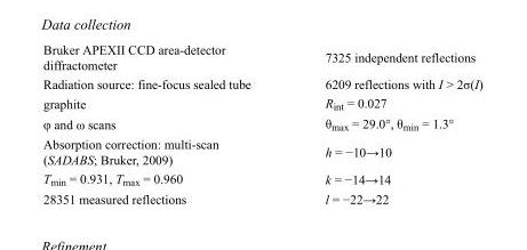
<table><tbody><tr><td>Bruker APEXII CCD area-detector diffractometer</td><td>7325 independent reflections</td></tr><tr><td>Radiation source: fine-focus sealed tube</td><td>6209 reflections with I &gt; 2σ(I)</td></tr><tr><td>graphite</td><td>R<sub>int</sub> = 0.027</td></tr><tr><td>φ and ω scans</td><td>θ<sub>max</sub> = 29.0°, θ<sub>min</sub> = 1.3°</td></tr><tr><td>Absorption correction: multi-scan (SADABS; Bruker, 2009)</td><td>h = −10→10</td></tr><tr><td>T<sub>min</sub> = 0.931, T<sub>max</sub> = 0.960</td><td>k = −14→14</td></tr><tr><td>28351 measured reflections</td><td>l = −22→22</td></tr></tbody></table>